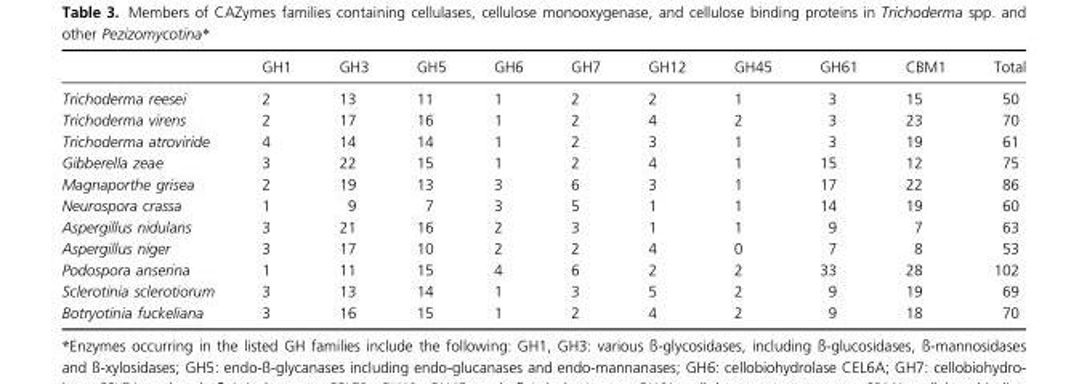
<table><thead><tr><td></td><td>GH1</td><td>GH3</td><td>GH5</td><td>GH6</td><td>GH7</td><td>GH12</td><td>GH45</td><td>GH61</td><td>CBM1</td><td>Total</td></tr></thead><tbody><tr><td>Trichoderma reesei</td><td>2</td><td>13</td><td>11</td><td>1</td><td>2</td><td>2</td><td>1</td><td>3</td><td>15</td><td>50</td></tr><tr><td>Trichoderma virens</td><td>2</td><td>17</td><td>16</td><td>1</td><td>2</td><td>4</td><td>2</td><td>3</td><td>23</td><td>70</td></tr><tr><td>Trichoderma atroviride</td><td>4</td><td>14</td><td>14</td><td>1</td><td>2</td><td>3</td><td>1</td><td>3</td><td>19</td><td>61</td></tr><tr><td>Gibberella zeae</td><td>3</td><td>22</td><td>15</td><td>1</td><td>2</td><td>4</td><td>1</td><td>15</td><td>12</td><td>75</td></tr><tr><td>Magnaporthe grisea</td><td>2</td><td>19</td><td>13</td><td>3</td><td>6</td><td>3</td><td>1</td><td>17</td><td>22</td><td>86</td></tr><tr><td>Neurospora crassa</td><td>1</td><td>9</td><td>7</td><td>3</td><td>5</td><td>1</td><td>1</td><td>14</td><td>19</td><td>60</td></tr><tr><td>Aspergillus nidulans</td><td>3</td><td>21</td><td>16</td><td>2</td><td>3</td><td>1</td><td>1</td><td>9</td><td>7</td><td>63</td></tr><tr><td>Aspergillus niger</td><td>3</td><td>17</td><td>10</td><td>2</td><td>2</td><td>4</td><td>0</td><td>7</td><td>8</td><td>53</td></tr><tr><td>Podospora anserina</td><td>1</td><td>11</td><td>15</td><td>4</td><td>6</td><td>2</td><td>2</td><td>33</td><td>28</td><td>102</td></tr><tr><td>Sclerotinia sclerotiorum</td><td>3</td><td>13</td><td>14</td><td>1</td><td>3</td><td>5</td><td>2</td><td>9</td><td>19</td><td>69</td></tr><tr><td>Botryotinia fuckeliana</td><td>3</td><td>16</td><td>15</td><td>1</td><td>2</td><td>4</td><td>2</td><td>9</td><td>18</td><td>70</td></tr></tbody></table>